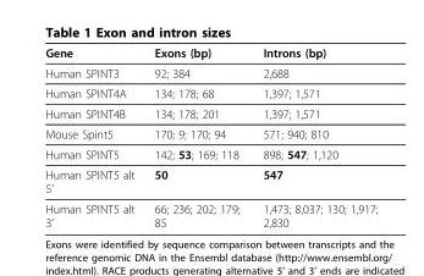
<table><thead><tr><td>Gene</td><td>Exons (bp)</td><td>Introns (bp)</td></tr></thead><tbody><tr><td>Human SPINT3</td><td>92; 384</td><td>2,688</td></tr><tr><td>Human SPINT4A</td><td>134; 178; 68</td><td>1,397; 1,571</td></tr><tr><td>Human SPINT4B</td><td>134; 178; 201</td><td>1,397; 1,571</td></tr><tr><td>Mouse Spint5</td><td>170; 9; 170; 94</td><td>571; 940; 810</td></tr><tr><td>Human SPINT5</td><td>142; 53; 169; 118</td><td>898; 547; 1,120</td></tr><tr><td>Human SPINT5 alt 5’</td><td>50</td><td>547</td></tr><tr><td>Human SPINT5 alt 3’</td><td>66; 236; 202; 179; 85</td><td>1,473; 8,037; 130; 1,917; 2,830</td></tr></tbody></table>